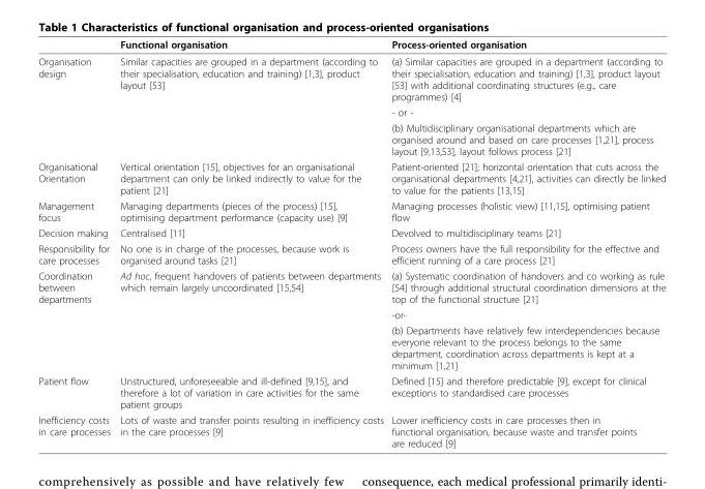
<table><thead><tr><td></td><td>Functional organisation</td><td>Process-oriented organisation</td></tr></thead><tbody><tr><td rowspan="3">Organisation design</td><td>Similar capacities are grouped in a department (according to their specialisation, education and training) [1,3], product layout [53]</td><td>(a) Similar capacities are grouped in a department (according to their specialisation, education and training) [1,3], product layout [53] with additional coordinating structures (e.g., care programmes) [4]</td></tr><tr><td></td><td>- or -</td></tr><tr><td></td><td>(b) Multidisciplinary organisational departments which are organised around and based on care processes [1,21], process layout [9,13,53], layout follows process [21]</td></tr><tr><td>Organisational Orientation</td><td>Vertical orientation [15], objectives for an organisational department can only be linked indirectly to value for the patient [21]</td><td>Patient-oriented [21]; horizontal orientation that cuts across the organisational departments [4,21], activities can directly be linked to value for the patients [13,15]</td></tr><tr><td>Management focus</td><td>Managing departments (pieces of the process) [15], optimising department performance (capacity use) [9]</td><td>Managing processes (holistic view) [11,15], optimising patient flow</td></tr><tr><td>Decision making</td><td>Centralised [11]</td><td>Devolved to multidisciplinary teams [21]</td></tr><tr><td>Responsibility for care processes</td><td>No one is in charge of the processes, because work is organised around tasks [21]</td><td>Process owners have the full responsibility for the effective and efficient running of a care process [21]</td></tr><tr><td rowspan="3">Coordination between departments</td><td>Ad hoc, frequent handovers of patients between departments which remain largely uncoordinated [15,54]</td><td>(a) Systematic coordination of handovers and co working as rule [54] through additional structural coordination dimensions at the top of the functional structure [21]</td></tr><tr><td></td><td>-or-</td></tr><tr><td></td><td>(b) Departments have relatively few interdependencies because everyone relevant to the process belongs to the same department, coordination across departments is kept at a minimum [1,21]</td></tr><tr><td>Patient flow</td><td>Unstructured, unforeseeable and ill-defined [9,15], and therefore a lot of variation in care activities for the same patient groups</td><td>Defined [15] and therefore predictable [9], except for clinical exceptions to standardised care processes</td></tr><tr><td>Inefficiency costs in care processes</td><td>Lots of waste and transfer points resulting in inefficiency costs in the care processes [9]</td><td>Lower inefficiency costs in care processes then in functional organisation, because waste and transfer points are reduced [9]</td></tr></tbody></table>